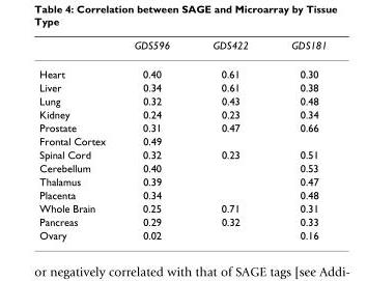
<table><thead><tr><td></td><td>GDS596</td><td>GDS422</td><td>GDS181</td></tr></thead><tbody><tr><td>Heart</td><td>0.40</td><td>0.61</td><td>0.30</td></tr><tr><td>Liver</td><td>0.34</td><td>0.61</td><td>0.38</td></tr><tr><td>Lung</td><td>0.32</td><td>0.43</td><td>0.48</td></tr><tr><td>Kidney</td><td>0.24</td><td>0.23</td><td>0.34</td></tr><tr><td>Prostate</td><td>0.31</td><td>0.47</td><td>0.66</td></tr><tr><td>Frontal Cortex</td><td>0.49</td><td></td><td></td></tr><tr><td>Spinal Cord</td><td>0.32</td><td>0.23</td><td>0.51</td></tr><tr><td>Cerebellum</td><td>0.40</td><td></td><td>0.53</td></tr><tr><td>Thalamus</td><td>0.39</td><td></td><td>0.47</td></tr><tr><td>Placenta</td><td>0.34</td><td></td><td>0.48</td></tr><tr><td>Whole Brain</td><td>0.25</td><td>0.71</td><td>0.31</td></tr><tr><td>Pancreas</td><td>0.29</td><td>0.32</td><td>0.33</td></tr><tr><td>Ovary</td><td>0.02</td><td></td><td>0.16</td></tr></tbody></table>